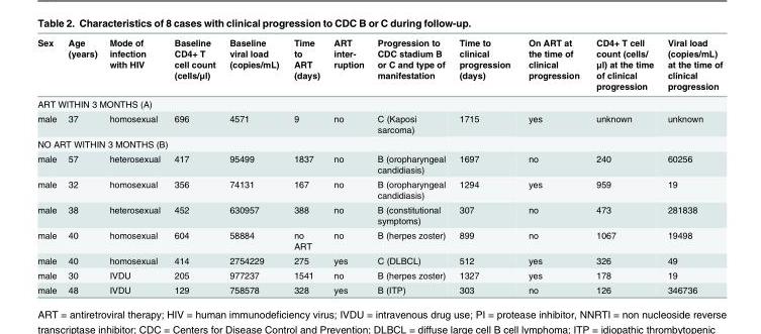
<table><thead><tr><td>Sex</td><td>Age (years)</td><td>Mode of infection with HIV</td><td>Baseline CD4+ T cell count (cells/μl)</td><td>Baseline viral load (copies/mL)</td><td>Time to ART (days)</td><td>ART inter- ruption</td><td>Progression to CDC stadium B or C and type of manifestation</td><td>Time to clinical progression (days)</td><td>On ART at the time of clinical progression</td><td>CD4+ T cell count (cells/ μl) at the time of clinical progression</td><td>Viral load (copies/mL) at the time of clinical progression</td></tr></thead><tbody><tr><td colspan="12">ART WITHIN 3 MONTHS (A)</td></tr><tr><td>male</td><td>37</td><td>homosexual</td><td>696</td><td>4571</td><td>9</td><td>no</td><td>C (Kaposi sarcoma)</td><td>1715</td><td>yes</td><td>unknown</td><td>unknown</td></tr><tr><td colspan="12">NO ART WITHIN 3 MONTHS (B)</td></tr><tr><td>male</td><td>57</td><td>heterosexual</td><td>417</td><td>95499</td><td>1837</td><td>no</td><td>B (oropharyngeal candidiasis)</td><td>1697</td><td>no</td><td>240</td><td>60256</td></tr><tr><td>male</td><td>32</td><td>homosexual</td><td>356</td><td>74131</td><td>167</td><td>no</td><td>B (oropharyngeal candidiasis)</td><td>1294</td><td>yes</td><td>959</td><td>19</td></tr><tr><td>male</td><td>38</td><td>heterosexual</td><td>452</td><td>630957</td><td>388</td><td>no</td><td>B (constitutional symptoms)</td><td>307</td><td>no</td><td>473</td><td>281838</td></tr><tr><td>male</td><td>40</td><td>homosexual</td><td>604</td><td>58884</td><td>no ART</td><td>no</td><td>B (herpes zoster)</td><td>899</td><td>no</td><td>1067</td><td>19498</td></tr><tr><td>male</td><td>40</td><td>homosexual</td><td>414</td><td>2754229</td><td>275</td><td>yes</td><td>C (DLBCL)</td><td>512</td><td>yes</td><td>326</td><td>49</td></tr><tr><td>male</td><td>30</td><td>IVDU</td><td>205</td><td>977237</td><td>1541</td><td>no</td><td>B (herpes zoster)</td><td>1327</td><td>yes</td><td>178</td><td>19</td></tr><tr><td>male</td><td>48</td><td>IVDU</td><td>129</td><td>758578</td><td>328</td><td>yes</td><td>B (ITP)</td><td>303</td><td>no</td><td>126</td><td>346736</td></tr></tbody></table>